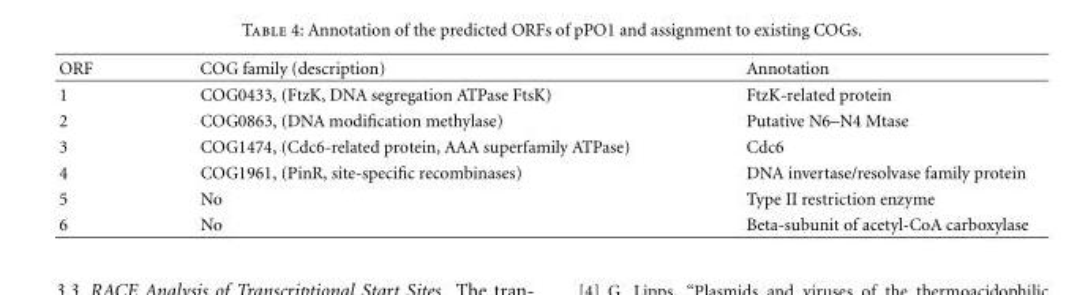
<table><thead><tr><td>ORF</td><td>COG family (description)</td><td>Annotation</td></tr></thead><tbody><tr><td>1</td><td>COG0433, (FtzK, DNA segregation ATPase FtsK)</td><td>FtzK-related protein</td></tr><tr><td>2</td><td>COG0863, (DNA modification methylase)</td><td>Putative N6–N4 Mtase</td></tr><tr><td>3</td><td>COG1474, (Cdc6-related protein, AAA superfamily ATPase)</td><td>Cdc6</td></tr><tr><td>4</td><td>COG1961, (PinR, site-specific recombinases)</td><td>DNA invertase/resolvase family protein</td></tr><tr><td>5</td><td>No</td><td>Type II restriction enzyme</td></tr><tr><td>6</td><td>No</td><td>Beta-subunit of acetyl-CoA carboxylase</td></tr></tbody></table>